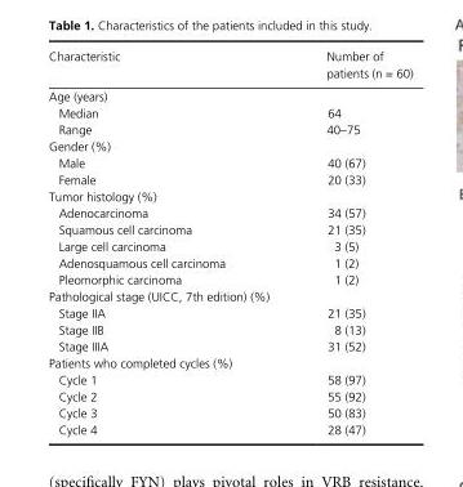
<table><thead><tr><td>Characteristic</td><td>Number of patients (n = 60)</td></tr></thead><tbody><tr><td colspan="2">Age (years)</td></tr><tr><td>Median</td><td>64</td></tr><tr><td>Range</td><td>40–75</td></tr><tr><td colspan="2">Gender (%)</td></tr><tr><td>Male</td><td>40 (67)</td></tr><tr><td>Female</td><td>20 (33)</td></tr><tr><td colspan="2">Tumor histology (%)</td></tr><tr><td>Adenocarcinoma</td><td>34 (57)</td></tr><tr><td>Squamous cell carcinoma</td><td>21 (35)</td></tr><tr><td>Large cell carcinoma</td><td>3 (5)</td></tr><tr><td>Adenosquamous cell carcinoma</td><td>1 (2)</td></tr><tr><td>Pleomorphic carcinoma</td><td>1 (2)</td></tr><tr><td colspan="2">Pathological stage (UICC, 7th edition) (%)</td></tr><tr><td>Stage IIA</td><td>21 (35)</td></tr><tr><td>Stage IIB</td><td>8 (13)</td></tr><tr><td>Stage IIIA</td><td>31 (52)</td></tr><tr><td colspan="2">Patients who completed cycles (%)</td></tr><tr><td>Cycle 1</td><td>58 (97)</td></tr><tr><td>Cycle 2</td><td>55 (92)</td></tr><tr><td>Cycle 3</td><td>50 (83)</td></tr><tr><td>Cycle 4</td><td>28 (47)</td></tr></tbody></table>